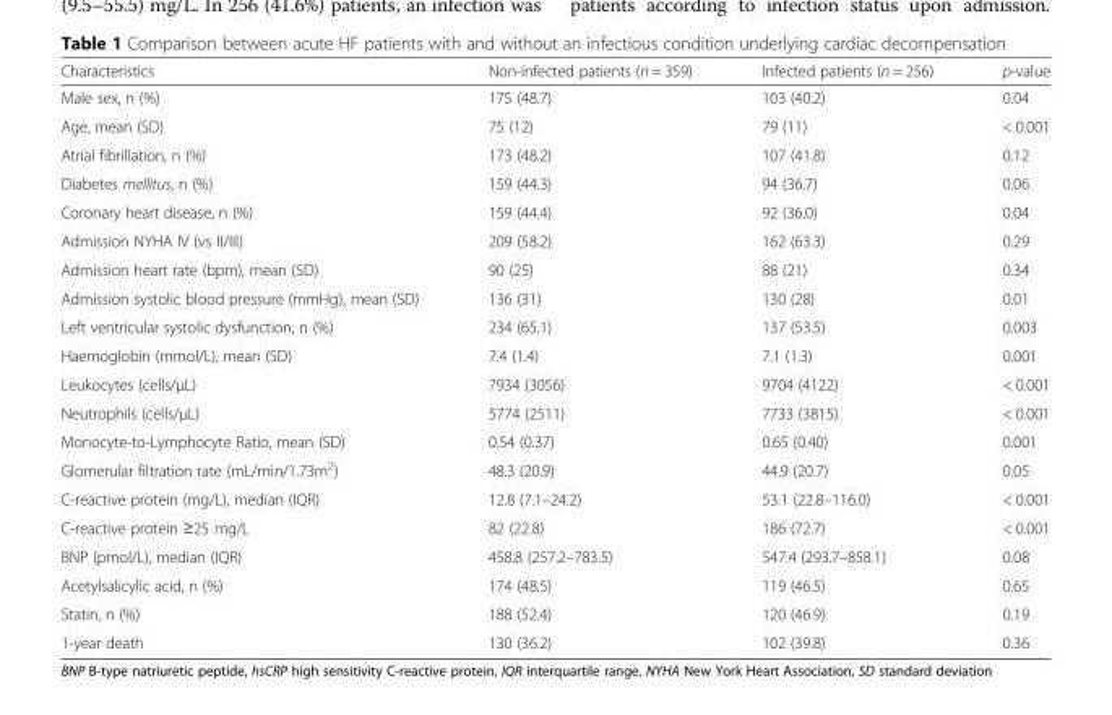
<table><thead><tr><td>Characteristics</td><td>Non-infected patients (n = 359)</td><td>Infected patients (n = 256)</td><td>p-value</td></tr></thead><tbody><tr><td>Male sex, n (%)</td><td>175 (48.7)</td><td>103 (40.2)</td><td>0.04</td></tr><tr><td>Age, mean (SD)</td><td>75 (12)</td><td>79 (11)</td><td>&lt; 0.001</td></tr><tr><td>Atrial fibrillation, n (%)</td><td>173 (48.2)</td><td>107 (41.8)</td><td>0.12</td></tr><tr><td>Diabetes mellitus, n (%)</td><td>159 (44.3)</td><td>94 (36.7)</td><td>0.06</td></tr><tr><td>Coronary heart disease, n (%)</td><td>159 (44.4)</td><td>92 (36.0)</td><td>0.04</td></tr><tr><td>Admission NYHA IV (vs II/III)</td><td>209 (58.2)</td><td>162 (63.3)</td><td>0.29</td></tr><tr><td>Admission heart rate (bpm), mean (SD)</td><td>90 (25)</td><td>88 (21)</td><td>0.34</td></tr><tr><td>Admission systolic blood pressure (mmHg), mean (SD)</td><td>136 (31)</td><td>130 (28)</td><td>0.01</td></tr><tr><td>Left ventricular systolic dysfunction, n (%)</td><td>234 (65.1)</td><td>137 (53.5)</td><td>0.003</td></tr><tr><td>Haemoglobin (mmol/L), mean (SD)</td><td>7.4 (1.4)</td><td>7.1 (1.3)</td><td>0.001</td></tr><tr><td>Leukocytes (cells/μL)</td><td>7934 (3056)</td><td>9704 (4122)</td><td>&lt; 0.001</td></tr><tr><td>Neutrophils (cells/μL)</td><td>5774 (2511)</td><td>7733 (3815)</td><td>&lt; 0.001</td></tr><tr><td>Monocyte-to-Lymphocyte Ratio, mean (SD)</td><td>0.54 (0.37)</td><td>0.65 (0.40)</td><td>0.001</td></tr><tr><td>Glomerular filtration rate (mL/min/1.73m<sup>2</sup>)</td><td>48.3 (20.9)</td><td>44.9 (20.7)</td><td>0.05</td></tr><tr><td>C-reactive protein (mg/L), median (IQR)</td><td>12.8 (7.1–24.2)</td><td>53.1 (22.8–116.0)</td><td>&lt; 0.001</td></tr><tr><td>C-reactive protein ≥25 mg/L</td><td>82 (22.8)</td><td>186 (72.7)</td><td>&lt; 0.001</td></tr><tr><td>BNP (pmol/L), median (IQR)</td><td>458.8 (257.2–783.5)</td><td>547.4 (293.7–858.1)</td><td>0.08</td></tr><tr><td>Acetylsalicylic acid, n (%)</td><td>174 (48.5)</td><td>119 (46.5)</td><td>0.65</td></tr><tr><td>Statin, n (%)</td><td>188 (52.4)</td><td>120 (46.9)</td><td>0.19</td></tr><tr><td>1-year death</td><td>130 (36.2)</td><td>102 (39.8)</td><td>0.36</td></tr></tbody></table>